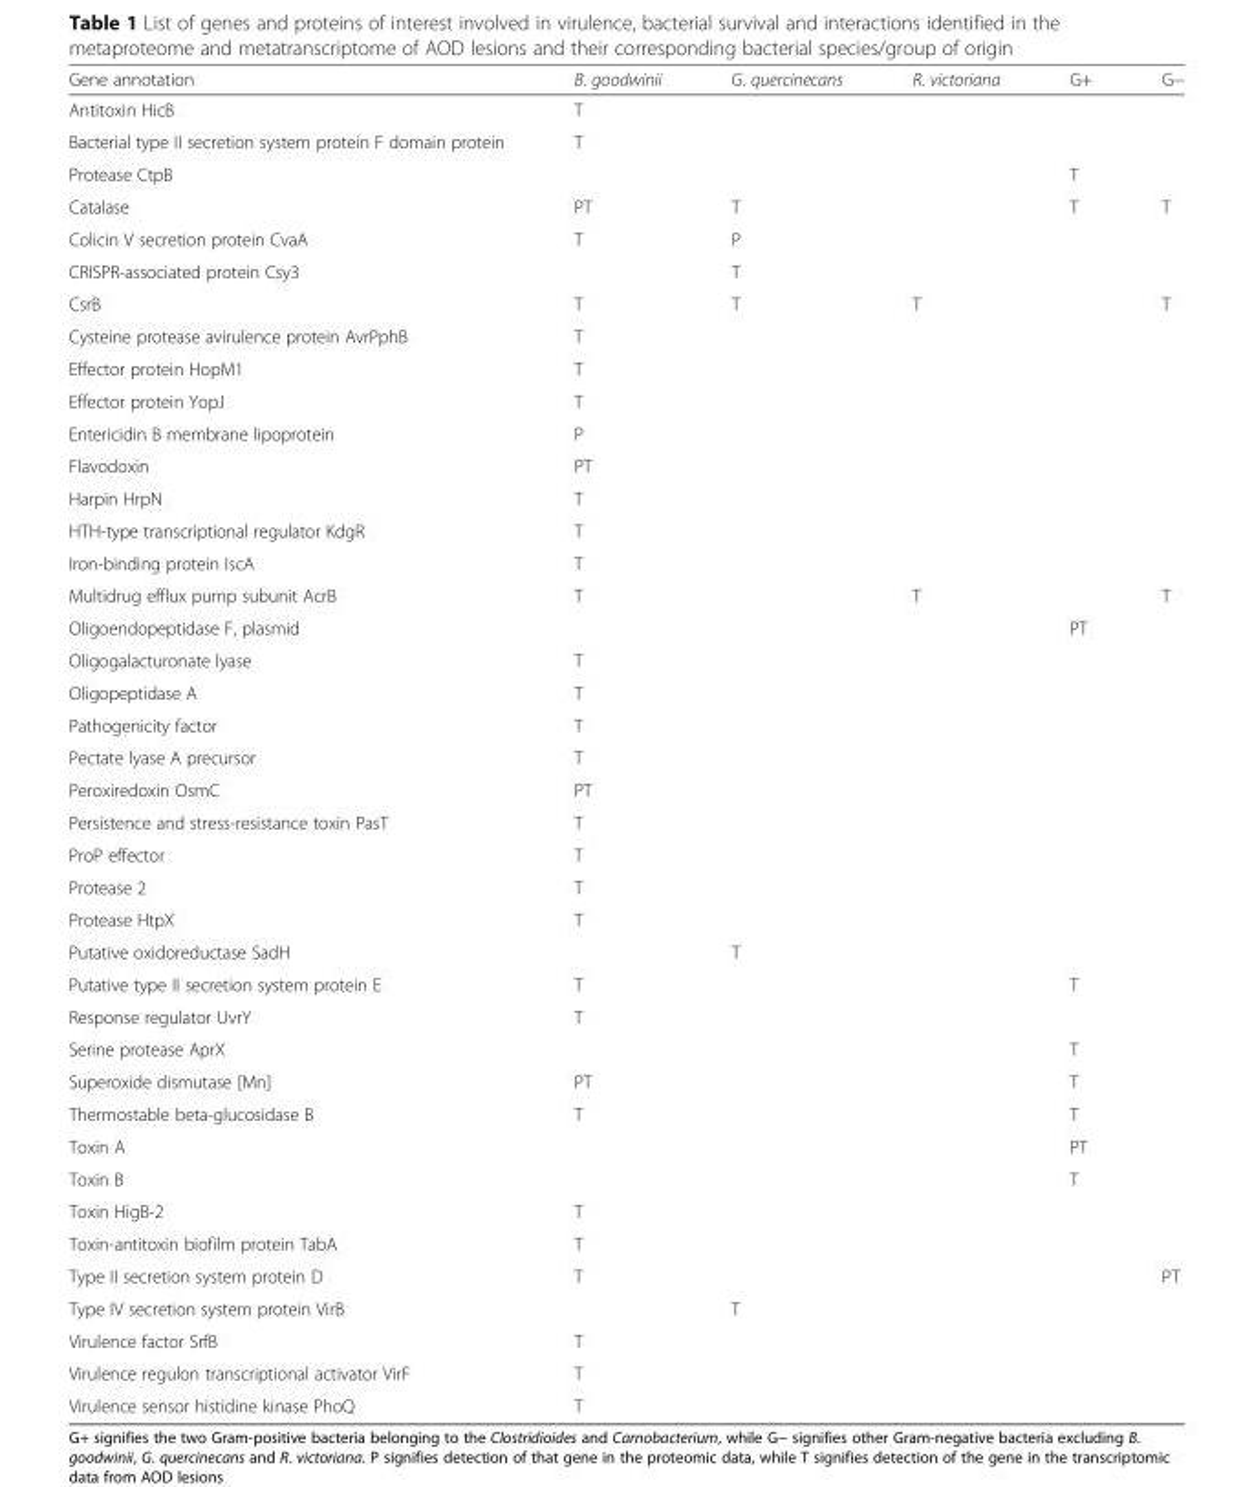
<table><thead><tr><td>Gene annotation</td><td>B. goodwinii</td><td>G. quercinecans</td><td>R. victoriana</td><td>G+</td><td>G−</td></tr></thead><tbody><tr><td>Antitoxin HicB</td><td>T</td><td></td><td></td><td></td><td></td></tr><tr><td>Bacterial type II secretion system protein F domain protein</td><td>T</td><td></td><td></td><td></td><td></td></tr><tr><td>Protease CtpB</td><td></td><td></td><td></td><td>T</td><td></td></tr><tr><td>Catalase</td><td>PT</td><td>T</td><td></td><td>T</td><td>T</td></tr><tr><td>Colicin V secretion protein CvaA</td><td>T</td><td>P</td><td></td><td></td><td></td></tr><tr><td>CRISPR-associated protein Csy3</td><td></td><td>T</td><td></td><td></td><td></td></tr><tr><td>CsrB</td><td>T</td><td>T</td><td>T</td><td></td><td>T</td></tr><tr><td>Cysteine protease avirulence protein AvrPphB</td><td>T</td><td></td><td></td><td></td><td></td></tr><tr><td>Effector protein HopM1</td><td>T</td><td></td><td></td><td></td><td></td></tr><tr><td>Effector protein YopJ</td><td>T</td><td></td><td></td><td></td><td></td></tr><tr><td>Entericidin B membrane lipoprotein</td><td>P</td><td></td><td></td><td></td><td></td></tr><tr><td>Flavodoxin</td><td>PT</td><td></td><td></td><td></td><td></td></tr><tr><td>Harpin HrpN</td><td>T</td><td></td><td></td><td></td><td></td></tr><tr><td>HTH-type transcriptional regulator KdgR</td><td>T</td><td></td><td></td><td></td><td></td></tr><tr><td>Iron-binding protein IscA</td><td>T</td><td></td><td></td><td></td><td></td></tr><tr><td>Multidrug efflux pump subunit AcrB</td><td>T</td><td></td><td>T</td><td></td><td>T</td></tr><tr><td>Oligoendopeptidase F, plasmid</td><td></td><td></td><td></td><td>PT</td><td></td></tr><tr><td>Oligogalacturonate lyase</td><td>T</td><td></td><td></td><td></td><td></td></tr><tr><td>Oligopeptidase A</td><td>T</td><td></td><td></td><td></td><td></td></tr><tr><td>Pathogenicity factor</td><td>T</td><td></td><td></td><td></td><td></td></tr><tr><td>Pectate lyase A precursor</td><td>T</td><td></td><td></td><td></td><td></td></tr><tr><td>Peroxiredoxin OsmC</td><td>PT</td><td></td><td></td><td></td><td></td></tr><tr><td>Persistence and stress-resistance toxin PasT</td><td>T</td><td></td><td></td><td></td><td></td></tr><tr><td>ProP effector</td><td>T</td><td></td><td></td><td></td><td></td></tr><tr><td>Protease 2</td><td>T</td><td></td><td></td><td></td><td></td></tr><tr><td>Protease HtpX</td><td>T</td><td></td><td></td><td></td><td></td></tr><tr><td>Putative oxidoreductase SadH</td><td></td><td>T</td><td></td><td></td><td></td></tr><tr><td>Putative type II secretion system protein E</td><td>T</td><td></td><td></td><td>T</td><td></td></tr><tr><td>Response regulator UvrY</td><td>T</td><td></td><td></td><td></td><td></td></tr><tr><td>Serine protease AprX</td><td></td><td></td><td></td><td>T</td><td></td></tr><tr><td>Superoxide dismutase [Mn]</td><td>PT</td><td></td><td></td><td>T</td><td></td></tr><tr><td>Thermostable beta-glucosidase B</td><td>T</td><td></td><td></td><td>T</td><td></td></tr><tr><td>Toxin A</td><td></td><td></td><td></td><td>PT</td><td></td></tr><tr><td>Toxin B</td><td></td><td></td><td></td><td>T</td><td></td></tr><tr><td>Toxin HigB-2</td><td>T</td><td></td><td></td><td></td><td></td></tr><tr><td>Toxin-antitoxin biofilm protein TabA</td><td>T</td><td></td><td></td><td></td><td></td></tr><tr><td>Type II secretion system protein D</td><td>T</td><td></td><td></td><td></td><td>PT</td></tr><tr><td>Type IV secretion system protein VirB</td><td></td><td>T</td><td></td><td></td><td></td></tr><tr><td>Virulence factor SrfB</td><td>T</td><td></td><td></td><td></td><td></td></tr><tr><td>Virulence regulon transcriptional activator VirF</td><td>T</td><td></td><td></td><td></td><td></td></tr><tr><td>Virulence sensor histidine kinase PhoQ</td><td>T</td><td></td><td></td><td></td><td></td></tr></tbody></table>